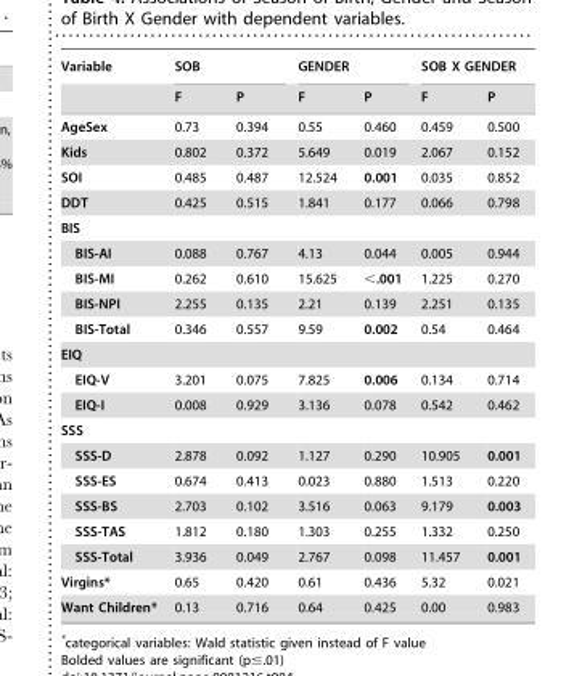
<table><thead><tr><td rowspan="2">Variable</td><td colspan="2">SOB</td><td colspan="2">GENDER</td><td colspan="2">SOB X GENDER</td></tr><tr><td>F</td><td>P</td><td>F</td><td>P</td><td>F</td><td>P</td></tr></thead><tbody><tr><td>AgeSex</td><td>0.73</td><td>0.394</td><td>0.55</td><td>0.460</td><td>0.459</td><td>0.500</td></tr><tr><td>Kids</td><td>0.802</td><td>0.372</td><td>5.649</td><td>0.019</td><td>2.067</td><td>0.152</td></tr><tr><td>SOI</td><td>0.485</td><td>0.487</td><td>12.524</td><td>0.001</td><td>0.035</td><td>0.852</td></tr><tr><td>DDT</td><td>0.425</td><td>0.515</td><td>1.841</td><td>0.177</td><td>0.066</td><td>0.798</td></tr><tr><td colspan="7">BIS</td></tr><tr><td>BIS-AI</td><td>0.088</td><td>0.767</td><td>4.13</td><td>0.044</td><td>0.005</td><td>0.944</td></tr><tr><td>BIS-MI</td><td>0.262</td><td>0.610</td><td>15.625</td><td>&lt;.001</td><td>1.225</td><td>0.270</td></tr><tr><td>BIS-NPI</td><td>2.255</td><td>0.135</td><td>2.21</td><td>0.139</td><td>2.251</td><td>0.135</td></tr><tr><td>BIS-Total</td><td>0.346</td><td>0.557</td><td>9.59</td><td>0.002</td><td>0.54</td><td>0.464</td></tr><tr><td colspan="7">EIQ</td></tr><tr><td>EIQ-V</td><td>3.201</td><td>0.075</td><td>7.825</td><td>0.006</td><td>0.134</td><td>0.714</td></tr><tr><td>EIQ-I</td><td>0.008</td><td>0.929</td><td>3.136</td><td>0.078</td><td>0.542</td><td>0.462</td></tr><tr><td colspan="7">SSS</td></tr><tr><td>SSS-D</td><td>2.878</td><td>0.092</td><td>1.127</td><td>0.290</td><td>10.905</td><td>0.001</td></tr><tr><td>SSS-ES</td><td>0.674</td><td>0.413</td><td>0.023</td><td>0.880</td><td>1.513</td><td>0.220</td></tr><tr><td>SSS-BS</td><td>2.703</td><td>0.102</td><td>3.516</td><td>0.063</td><td>9.179</td><td>0.003</td></tr><tr><td>SSS-TAS</td><td>1.812</td><td>0.180</td><td>1.303</td><td>0.255</td><td>1.332</td><td>0.250</td></tr><tr><td>SSS-Total</td><td>3.936</td><td>0.049</td><td>2.767</td><td>0.098</td><td>11.457</td><td>0.001</td></tr><tr><td>Virgins*</td><td>0.65</td><td>0.420</td><td>0.61</td><td>0.436</td><td>5.32</td><td>0.021</td></tr><tr><td>Want Children*</td><td>0.13</td><td>0.716</td><td>0.64</td><td>0.425</td><td>0.00</td><td>0.983</td></tr></tbody></table>